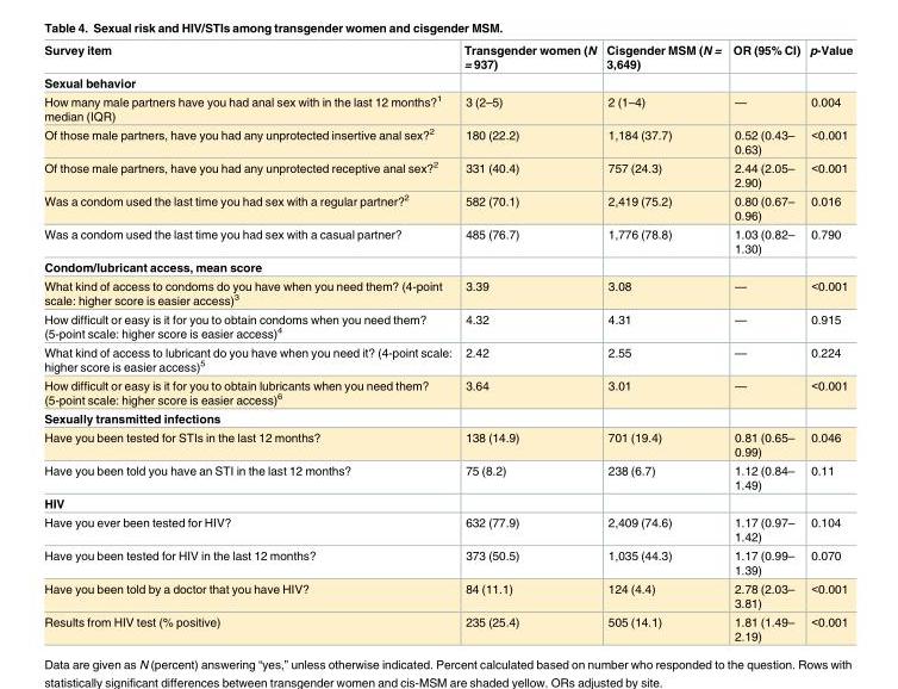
<table><thead><tr><td>Survey item</td><td>Transgender women (N = 937)</td><td>Cisgender MSM (N = 3,649)</td><td>OR (95% CI)</td><td>p-Value</td></tr></thead><tbody><tr><td colspan="5">Sexual behavior</td></tr><tr><td>How many male partners have you had anal sex with in the last 12 months?<sup>1</sup> median (IQR)</td><td>3 (2–5)</td><td>2 (1–4)</td><td>—</td><td>0.004</td></tr><tr><td>Of those male partners, have you had any unprotected insertive anal sex?<sup>2</sup></td><td>180 (22.2)</td><td>1,184 (37.7)</td><td>0.52 (0.43– 0.63)</td><td>&lt;0.001</td></tr><tr><td>Of those male partners, have you had any unprotected receptive anal sex?<sup>2</sup></td><td>331 (40.4)</td><td>757 (24.3)</td><td>2.44 (2.05– 2.90)</td><td>&lt;0.001</td></tr><tr><td>Was a condom used the last time you had sex with a regular partner?<sup>2</sup></td><td>582 (70.1)</td><td>2,419 (75.2)</td><td>0.80 (0.67– 0.96)</td><td>0.016</td></tr><tr><td>Was a condom used the last time you had sex with a casual partner?</td><td>485 (76.7)</td><td>1,776 (78.8)</td><td>1.03 (0.82– 1.30)</td><td>0.790</td></tr><tr><td colspan="5">Condom/lubricant access, mean score</td></tr><tr><td>What kind of access to condoms do you have when you need them? (4-point scale: higher score is easier access)<sup>3</sup></td><td>3.39</td><td>3.08</td><td>—</td><td>&lt;0.001</td></tr><tr><td>How difficult or easy is it for you to obtain condoms when you need them? (5-point scale: higher score is easier access)<sup>4</sup></td><td>4.32</td><td>4.31</td><td>—</td><td>0.915</td></tr><tr><td>What kind of access to lubricant do you have when you need it? (4-point scale: higher score is easier access)<sup>5</sup></td><td>2.42</td><td>2.55</td><td>—</td><td>0.224</td></tr><tr><td>How difficult or easy is it for you to obtain lubricants when you need them? (5-point scale: higher score is easier access)<sup>6</sup></td><td>3.64</td><td>3.01</td><td>—</td><td>&lt;0.001</td></tr><tr><td colspan="5">Sexually transmitted infections</td></tr><tr><td>Have you been tested for STIs in the last 12 months?</td><td>138 (14.9)</td><td>701 (19.4)</td><td>0.81 (0.65– 0.99)</td><td>0.046</td></tr><tr><td>Have you been told you have an STI in the last 12 months?</td><td>75 (8.2)</td><td>238 (6.7)</td><td>1.12 (0.84– 1.49)</td><td>0.11</td></tr><tr><td colspan="5">HIV</td></tr><tr><td>Have you ever been tested for HIV?</td><td>632 (77.9)</td><td>2,409 (74.6)</td><td>1.17 (0.97– 1.42)</td><td>0.104</td></tr><tr><td>Have you been tested for HIV in the last 12 months?</td><td>373 (50.5)</td><td>1,035 (44.3)</td><td>1.17 (0.99– 1.39)</td><td>0.070</td></tr><tr><td>Have you been told by a doctor that you have HIV?</td><td>84 (11.1)</td><td>124 (4.4)</td><td>2.78 (2.03– 3.81)</td><td>&lt;0.001</td></tr><tr><td>Results from HIV test (% positive)</td><td>235 (25.4)</td><td>505 (14.1)</td><td>1.81 (1.49– 2.19)</td><td>&lt;0.001</td></tr></tbody></table>